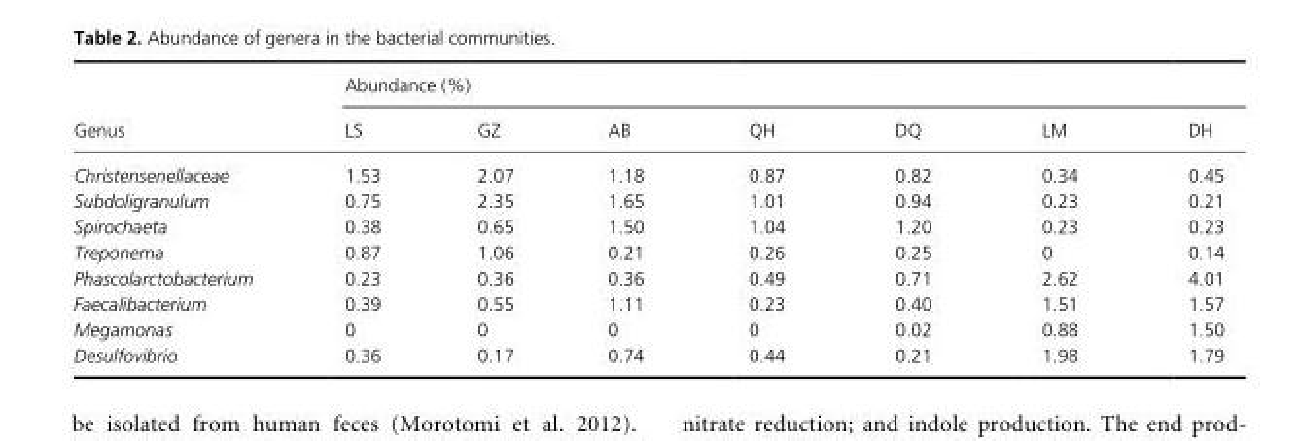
<table><thead><tr><td rowspan="2">Genus</td><td colspan="7">Abundance (%)</td></tr><tr><td>LS</td><td>GZ</td><td>AB</td><td>QH</td><td>DQ</td><td>LM</td><td>DH</td></tr></thead><tbody><tr><td>Christensenellaceae</td><td>1.53</td><td>2.07</td><td>1.18</td><td>0.87</td><td>0.82</td><td>0.34</td><td>0.45</td></tr><tr><td>Subdoligranulum</td><td>0.75</td><td>2.35</td><td>1.65</td><td>1.01</td><td>0.94</td><td>0.23</td><td>0.21</td></tr><tr><td>Spirochaeta</td><td>0.38</td><td>0.65</td><td>1.50</td><td>1.04</td><td>1.20</td><td>0.23</td><td>0.23</td></tr><tr><td>Treponema</td><td>0.87</td><td>1.06</td><td>0.21</td><td>0.26</td><td>0.25</td><td>0</td><td>0.14</td></tr><tr><td>Phascolarctobacterium</td><td>0.23</td><td>0.36</td><td>0.36</td><td>0.49</td><td>0.71</td><td>2.62</td><td>4.01</td></tr><tr><td>Faecalibacterium</td><td>0.39</td><td>0.55</td><td>1.11</td><td>0.23</td><td>0.40</td><td>1.51</td><td>1.57</td></tr><tr><td>Megamonas</td><td>0</td><td>0</td><td>0</td><td>0</td><td>0.02</td><td>0.88</td><td>1.50</td></tr><tr><td>Desulfovibrio</td><td>0.36</td><td>0.17</td><td>0.74</td><td>0.44</td><td>0.21</td><td>1.98</td><td>1.79</td></tr></tbody></table>